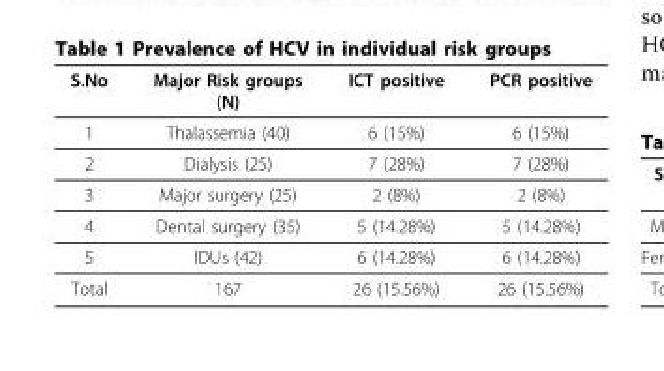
<table><thead><tr><td>S.No</td><td>Major Risk groups (N)</td><td>ICT positive</td><td>PCR positive</td></tr></thead><tbody><tr><td>1</td><td>Thalassemia (40)</td><td>6 (15%)</td><td>6 (15%)</td></tr><tr><td>2</td><td>Dialysis (25)</td><td>7 (28%)</td><td>7 (28%)</td></tr><tr><td>3</td><td>Major surgery (25)</td><td>2 (8%)</td><td>2 (8%)</td></tr><tr><td>4</td><td>Dental surgery (35)</td><td>5 (14.28%)</td><td>5 (14.28%)</td></tr><tr><td>5</td><td>IDUs (42)</td><td>6 (14.28%)</td><td>6 (14.28%)</td></tr><tr><td>Total</td><td>167</td><td>26 (15.56%)</td><td>26 (15.56%)</td></tr></tbody></table>